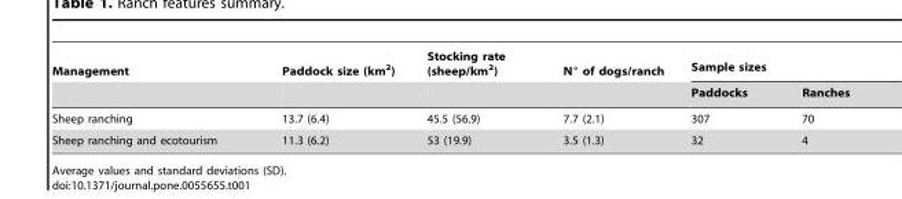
<table><thead><tr><td rowspan="2">Management</td><td rowspan="2">Paddock size (km<sup>2</sup>)</td><td rowspan="2">Stocking rate (sheep/km<sup>2</sup>)</td><td rowspan="2">N° of dogs/ranch</td><td colspan="2">Sample sizes</td></tr><tr><td>Paddocks</td><td>Ranches</td></tr></thead><tbody><tr><td>Sheep ranching</td><td>13.7 (6.4)</td><td>45.5 (56.9)</td><td>7.7 (2.1)</td><td>307</td><td>70</td></tr><tr><td>Sheep ranching and ecotourism</td><td>11.3 (6.2)</td><td>53 (19.9)</td><td>3.5 (1.3)</td><td>32</td><td>4</td></tr></tbody></table>